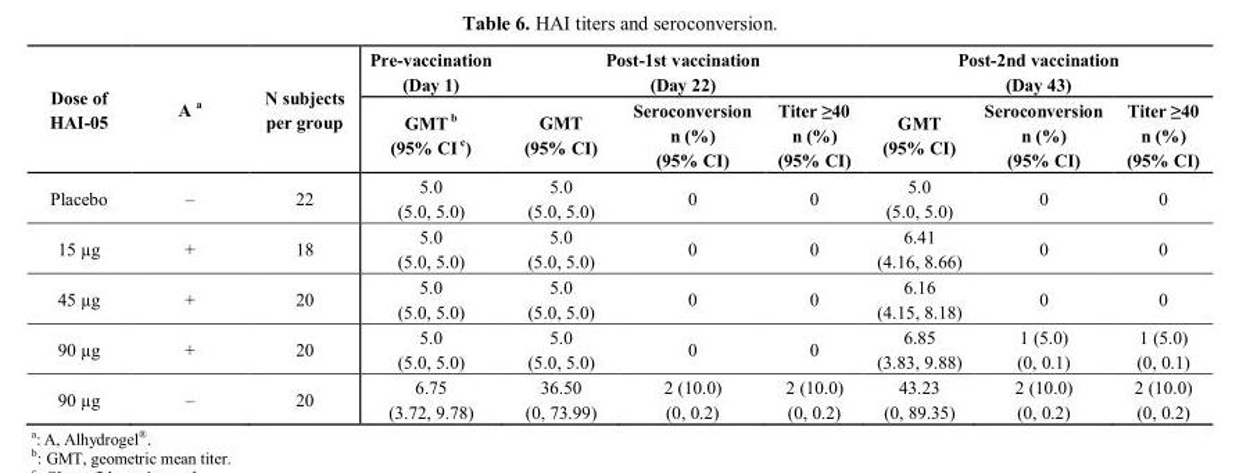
<table><thead><tr><td rowspan="2">Dose of HAI-05</td><td rowspan="2">A <sup>a</sup></td><td rowspan="2">N subjects per group</td><td rowspan="2">Pre-vaccination (Day 1) GMT <sup>b</sup> (95% CI <sup>c</sup>)</td><td colspan="3">Post-1st vaccination (Day 22)</td><td colspan="3">Post-2nd vaccination (Day 43)</td></tr><tr><td>GMT (95% CI)</td><td>Seroconversion n (%) (95% CI)</td><td>Titer ≥40 n (%) (95% CI)</td><td>GMT (95% CI)</td><td>Seroconversion n (%) (95% CI)</td><td>Titer ≥40 n (%) (95% CI)</td></tr></thead><tbody><tr><td>Placebo</td><td>–</td><td>22</td><td>5.0 (5.0, 5.0)</td><td>5.0 (5.0, 5.0)</td><td>0</td><td>0</td><td>5.0 (5.0, 5.0)</td><td>0</td><td>0</td></tr><tr><td>15 µg</td><td>+</td><td>18</td><td>5.0 (5.0, 5.0)</td><td>5.0 (5.0, 5.0)</td><td>0</td><td>0</td><td>6.41 (4.16, 8.66)</td><td>0</td><td>0</td></tr><tr><td>45 µg</td><td>+</td><td>20</td><td>5.0 (5.0, 5.0)</td><td>5.0 (5.0, 5.0)</td><td>0</td><td>0</td><td>6.16 (4.15, 8.18)</td><td>0</td><td>0</td></tr><tr><td>90 µg</td><td>+</td><td>20</td><td>5.0 (5.0, 5.0)</td><td>5.0 (5.0, 5.0)</td><td>0</td><td>0</td><td>6.85 (3.83, 9.88)</td><td>1 (5.0) (0, 0.1)</td><td>1 (5.0) (0, 0.1)</td></tr><tr><td>90 µg</td><td>–</td><td>20</td><td>6.75 (3.72, 9.78)</td><td>36.50 (0, 73.99)</td><td>2 (10.0) (0, 0.2)</td><td>2 (10.0) (0, 0.2)</td><td>43.23 (0, 89.35)</td><td>2 (10.0) (0, 0.2)</td><td>2 (10.0) (0, 0.2)</td></tr></tbody></table>